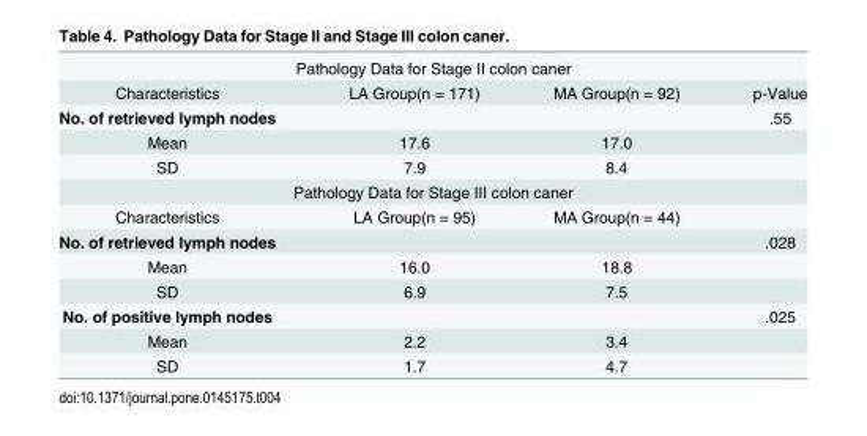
<table><tbody><tr><td colspan="4">Pathology Data for Stage II colon caner</td></tr><tr><td>Characteristics</td><td>LA Group(n = 171)</td><td>MA Group(n = 92)</td><td>p-Value</td></tr><tr><td>No. of retrieved lymph nodes</td><td></td><td></td><td>.55</td></tr><tr><td>Mean</td><td>17.6</td><td>17.0</td><td></td></tr><tr><td>SD</td><td>7.9</td><td>8.4</td><td></td></tr><tr><td colspan="4">Pathology Data for Stage III colon caner</td></tr><tr><td>Characteristics</td><td>LA Group(n = 95)</td><td>MA Group(n = 44)</td><td></td></tr><tr><td>No. of retrieved lymph nodes</td><td></td><td></td><td>.028</td></tr><tr><td>Mean</td><td>16.0</td><td>18.8</td><td></td></tr><tr><td>SD</td><td>6.9</td><td>7.5</td><td></td></tr><tr><td>No. of positive lymph nodes</td><td></td><td></td><td>.025</td></tr><tr><td>Mean</td><td>2.2</td><td>3.4</td><td></td></tr><tr><td>SD</td><td>1.7</td><td>4.7</td><td></td></tr></tbody></table>